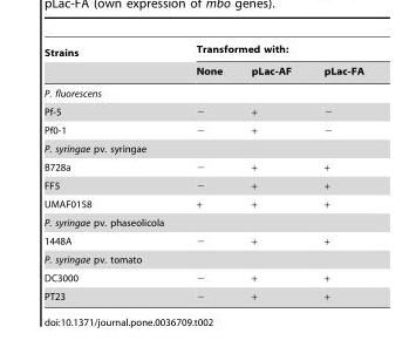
<table><thead><tr><td rowspan="2">Strains</td><td colspan="3">Transformed with:</td></tr><tr><td>None</td><td>pLac-AF</td><td>pLac-FA</td></tr></thead><tbody><tr><td colspan="4">P. fluorescens</td></tr><tr><td>Pf-5</td><td>−</td><td>+</td><td>−</td></tr><tr><td>Pf0-1</td><td>−</td><td>+</td><td>−</td></tr><tr><td colspan="4">P. syringae pv. syringae</td></tr><tr><td>B728a</td><td>−</td><td>+</td><td>+</td></tr><tr><td>FF5</td><td>−</td><td>+</td><td>+</td></tr><tr><td>UMAF0158</td><td>+</td><td>+</td><td>+</td></tr><tr><td colspan="4">P. syringae pv. phaseolicola</td></tr><tr><td>1448A</td><td>−</td><td>+</td><td>+</td></tr><tr><td colspan="4">P. syringae pv. tomato</td></tr><tr><td>DC3000</td><td>−</td><td>+</td><td>+</td></tr><tr><td>PT23</td><td>−</td><td>+</td><td>+</td></tr></tbody></table>